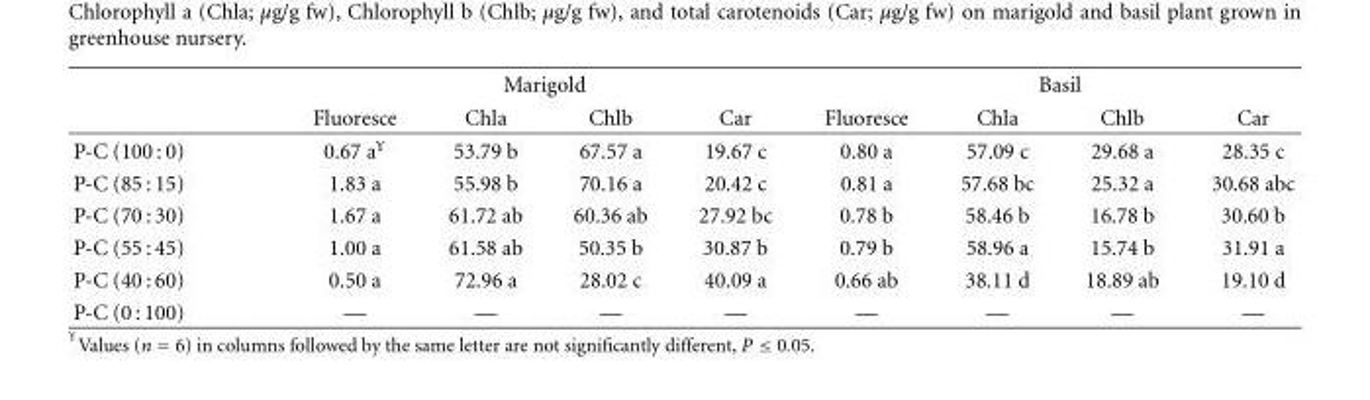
<table><thead><tr><td rowspan="2"></td><td colspan="4">Marigold</td><td colspan="4">Basil</td></tr><tr><td>Fluoresce</td><td>Chla</td><td>Chlb</td><td>Car</td><td>Fluoresce</td><td>Chla</td><td>Chlb</td><td>Car</td></tr></thead><tbody><tr><td>P-C (100 : 0)</td><td>0.67 a<sup>Y</sup></td><td>53.79 b</td><td>67.57 a</td><td>19.67 c</td><td>0.80 a</td><td>57.09 c</td><td>29.68 a</td><td>28.35 c</td></tr><tr><td>P-C (85 : 15)</td><td>1.83 a</td><td>55.98 b</td><td>70.16 a</td><td>20.42 c</td><td>0.81 a</td><td>57.68 bc</td><td>25.32 a</td><td>30.68 abc</td></tr><tr><td>P-C (70 : 30)</td><td>1.67 a</td><td>61.72 ab</td><td>60.36 ab</td><td>27.92 bc</td><td>0.78 b</td><td>58.46 b</td><td>16.78 b</td><td>30.60 b</td></tr><tr><td>P-C (55 : 45)</td><td>1.00 a</td><td>61.58 ab</td><td>50.35 b</td><td>30.87 b</td><td>0.79 b</td><td>58.96 a</td><td>15.74 b</td><td>31.91 a</td></tr><tr><td>P-C (40 : 60)</td><td>0.50 a</td><td>72.96 a</td><td>28.02 c</td><td>40.09 a</td><td>0.66 ab</td><td>38.11 d</td><td>18.89 ab</td><td>19.10 d</td></tr><tr><td>P-C (0 : 100)</td><td>—</td><td>—</td><td>—</td><td>—</td><td>—</td><td>—</td><td>—</td><td>—</td></tr></tbody></table>